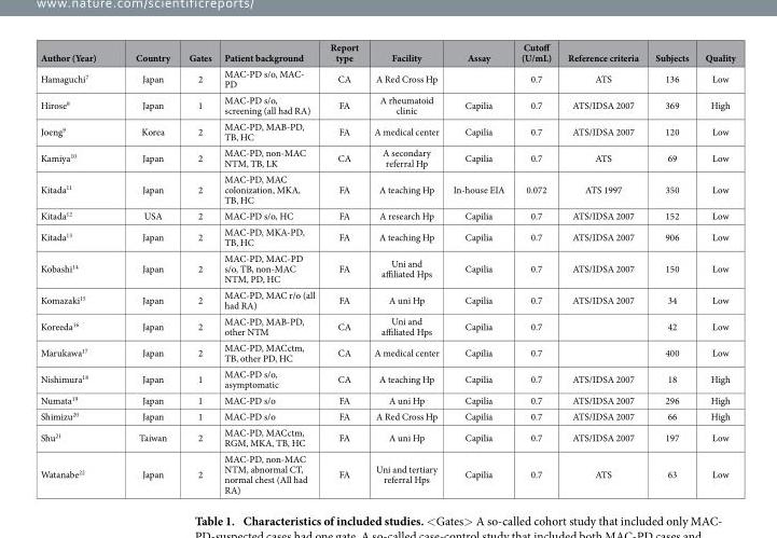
<table><thead><tr><td>Author (Year)</td><td>Country</td><td>Gates</td><td>Patient background</td><td>Report type</td><td>Facility</td><td>Assay</td><td>Cutoff (U/mL)</td><td>Reference criteria</td><td>Subjects</td><td>Quality</td></tr></thead><tbody><tr><td>Hamaguchi<sup>7</sup></td><td>Japan</td><td>2</td><td>MAC-PD s/o, MAC- PD</td><td>CA</td><td>A Red Cross Hp</td><td></td><td>0.7</td><td>ATS</td><td>136</td><td>Low</td></tr><tr><td>Hirose<sup>8</sup></td><td>Japan</td><td>1</td><td>MAC-PD s/o, screening (all had RA)</td><td>FA</td><td>A rheumatoid clinic</td><td>Capilia</td><td>0.7</td><td>ATS/IDSA 2007</td><td>369</td><td>High</td></tr><tr><td>Joeng<sup>9</sup></td><td>Korea</td><td>2</td><td>MAC-PD, MAB-PD, TB, HC</td><td>FA</td><td>A medical center</td><td>Capilia</td><td>0.7</td><td>ATS/IDSA 2007</td><td>120</td><td>Low</td></tr><tr><td>Kamiya<sup>10</sup></td><td>Japan</td><td>2</td><td>MAC-PD, non-MAC NTM, TB, LK</td><td>CA</td><td>A secondary referral Hp</td><td>Capilia</td><td>0.7</td><td>ATS</td><td>69</td><td>Low</td></tr><tr><td>Kitada<sup>11</sup></td><td>Japan</td><td>2</td><td>MAC-PD, MAC colonization, MKA, TB, HC</td><td>FA</td><td>A teaching Hp</td><td>In-house EIA</td><td>0.072</td><td>ATS 1997</td><td>350</td><td>Low</td></tr><tr><td>Kitada<sup>12</sup></td><td>USA</td><td>2</td><td>MAC-PD s/o, HC</td><td>FA</td><td>A research Hp</td><td>Capilia</td><td>0.7</td><td>ATS/IDSA 2007</td><td>152</td><td>Low</td></tr><tr><td>Kitada<sup>13</sup></td><td>Japan</td><td>2</td><td>MAC-PD, MKA-PD, TB, HC</td><td>FA</td><td>A teaching Hp</td><td>Capilia</td><td>0.7</td><td>ATS/IDSA 2007</td><td>906</td><td>Low</td></tr><tr><td>Kobashi<sup>14</sup></td><td>Japan</td><td>2</td><td>MAC-PD, MAC-PD s/o, TB, non-MAC NTM, PD, HC</td><td>FA</td><td>Uni and affiliated Hps</td><td>Capilia</td><td>0.7</td><td>ATS/IDSA 2007</td><td>150</td><td>Low</td></tr><tr><td>Komazaki<sup>15</sup></td><td>Japan</td><td>2</td><td>MAC-PD, MAC r/o (all had RA)</td><td>FA</td><td>A uni Hp</td><td>Capilia</td><td>0.7</td><td>ATS/IDSA 2007</td><td>34</td><td>Low</td></tr><tr><td>Koreeda<sup>16</sup></td><td>Japan</td><td>2</td><td>MAC-PD, MAB-PD, other NTM</td><td>CA</td><td>Uni and affiliated Hps</td><td>Capilia</td><td>0.7</td><td></td><td>42</td><td>Low</td></tr><tr><td>Marukawa<sup>17</sup></td><td>Japan</td><td>2</td><td>MAC-PD, MACctm, TB, other PD, HC</td><td>CA</td><td>A medical center</td><td>Capilia</td><td>0.7</td><td></td><td>400</td><td>Low</td></tr><tr><td>Nishimura<sup>18</sup></td><td>Japan</td><td>1</td><td>MAC-PD s/o, asymptomatic</td><td>CA</td><td>A teaching Hp</td><td>Capilia</td><td>0.7</td><td>ATS/IDSA 2007</td><td>18</td><td>High</td></tr><tr><td>Numata<sup>19</sup></td><td>Japan</td><td>1</td><td>MAC-PD s/o</td><td>FA</td><td>A uni Hp</td><td>Capilia</td><td>0.7</td><td>ATS/IDSA 2007</td><td>296</td><td>High</td></tr><tr><td>Shimizu<sup>20</sup></td><td>Japan</td><td>1</td><td>MAC-PD s/o</td><td>FA</td><td>A Red Cross Hp</td><td>Capilia</td><td>0.7</td><td>ATS/IDSA 2007</td><td>66</td><td>High</td></tr><tr><td>Shu<sup>21</sup></td><td>Taiwan</td><td>2</td><td>MAC-PD, MACctm, RGM, MKA, TB, HC</td><td>FA</td><td>A uni Hp</td><td>Capilia</td><td>0.7</td><td>ATS/IDSA 2007</td><td>197</td><td>Low</td></tr><tr><td>Watanabe<sup>22</sup></td><td>Japan</td><td>2</td><td>MAC-PD, non-MAC NTM, abnormal CT, normal chest (All had RA)</td><td>FA</td><td>Uni and tertiary referral Hps</td><td>Capilia</td><td>0.7</td><td>ATS</td><td>63</td><td>Low</td></tr></tbody></table>